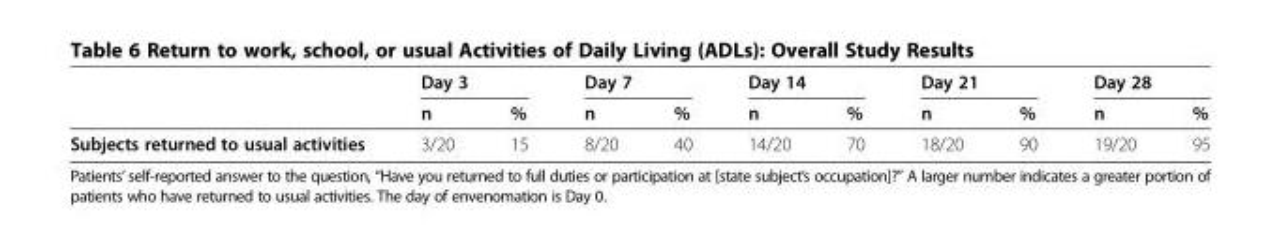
<table><thead><tr><td rowspan="2"></td><td colspan="2">Day 3</td><td colspan="2">Day 7</td><td colspan="2">Day 14</td><td colspan="2">Day 21</td><td colspan="2">Day 28</td></tr><tr><td>n</td><td>%</td><td>n</td><td>%</td><td>n</td><td>%</td><td>n</td><td>%</td><td>n</td><td>%</td></tr></thead><tbody><tr><td>Subjects returned to usual activities</td><td>3/20</td><td>15</td><td>8/20</td><td>40</td><td>14/20</td><td>70</td><td>18/20</td><td>90</td><td>19/20</td><td>95</td></tr></tbody></table>